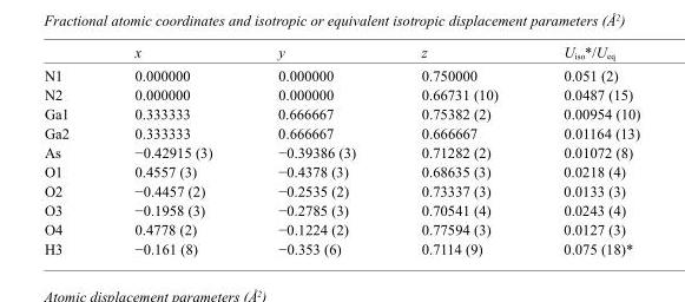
<table><thead><tr><td></td><td>x</td><td>y</td><td>z</td><td>U<sub>iso</sub>*/U<sub>eq</sub></td></tr></thead><tbody><tr><td>N1</td><td>0.000000</td><td>0.000000</td><td>0.750000</td><td>0.051 (2)</td></tr><tr><td>N2</td><td>0.000000</td><td>0.000000</td><td>0.66731 (10)</td><td>0.0487 (15)</td></tr><tr><td>Ga1</td><td>0.333333</td><td>0.666667</td><td>0.75382 (2)</td><td>0.00954 (10)</td></tr><tr><td>Ga2</td><td>0.333333</td><td>0.666667</td><td>0.666667</td><td>0.01164 (13)</td></tr><tr><td>As</td><td>−0.42915 (3)</td><td>−0.39386 (3)</td><td>0.71282 (2)</td><td>0.01072 (8)</td></tr><tr><td>O1</td><td>0.4557 (3)</td><td>−0.4378 (3)</td><td>0.68635 (3)</td><td>0.0218 (4)</td></tr><tr><td>O2</td><td>−0.4457 (2)</td><td>−0.2535 (2)</td><td>0.73337 (3)</td><td>0.0133 (3)</td></tr><tr><td>O3</td><td>−0.1958 (3)</td><td>−0.2785 (3)</td><td>0.70541 (4)</td><td>0.0243 (4)</td></tr><tr><td>O4</td><td>0.4778 (2)</td><td>−0.1224 (2)</td><td>0.77594 (3)</td><td>0.0127 (3)</td></tr><tr><td>H3</td><td>−0.161 (8)</td><td>−0.353 (6)</td><td>0.7114 (9)</td><td>0.075 (18)*</td></tr></tbody></table>